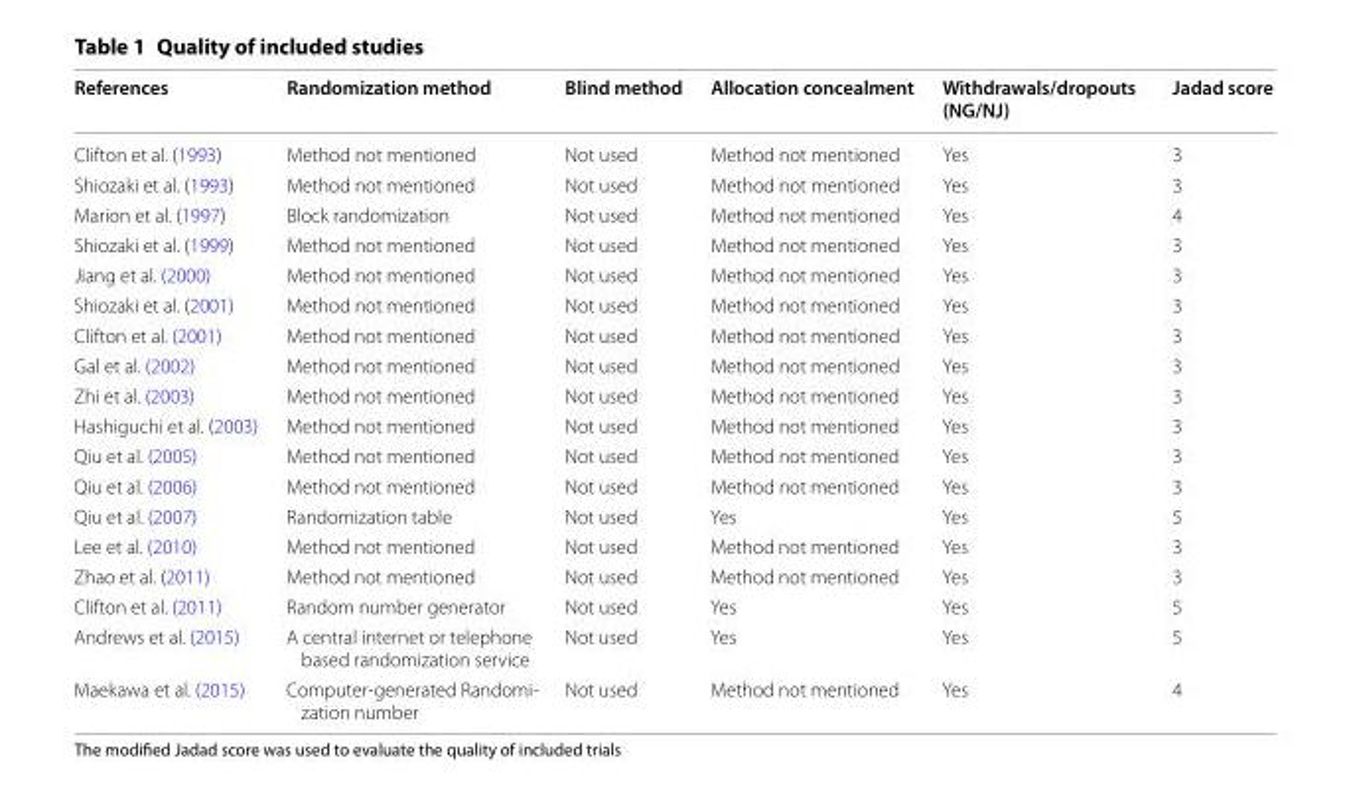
<table><thead><tr><td>References</td><td>Randomization method</td><td>Blind method</td><td>Allocation concealment</td><td>Withdrawals/dropouts (NG/NJ)</td><td>Jadad score</td></tr></thead><tbody><tr><td>Clifton et al. (1993)</td><td>Method not mentioned</td><td>Not used</td><td>Method not mentioned</td><td>Yes</td><td>3</td></tr><tr><td>Shiozaki et al. (1993)</td><td>Method not mentioned</td><td>Not used</td><td>Method not mentioned</td><td>Yes</td><td>3</td></tr><tr><td>Marion et al. (1997)</td><td>Block randomization</td><td>Not used</td><td>Method not mentioned</td><td>Yes</td><td>4</td></tr><tr><td>Shiozaki et al. (1999)</td><td>Method not mentioned</td><td>Not used</td><td>Method not mentioned</td><td>Yes</td><td>3</td></tr><tr><td>Jiang et al. (2000)</td><td>Method not mentioned</td><td>Not used</td><td>Method not mentioned</td><td>Yes</td><td>3</td></tr><tr><td>Shiozaki et al. (2001)</td><td>Method not mentioned</td><td>Not used</td><td>Method not mentioned</td><td>Yes</td><td>3</td></tr><tr><td>Clifton et al. (2001)</td><td>Method not mentioned</td><td>Not used</td><td>Method not mentioned</td><td>Yes</td><td>3</td></tr><tr><td>Gal et al. (2002)</td><td>Method not mentioned</td><td>Not used</td><td>Method not mentioned</td><td>Yes</td><td>3</td></tr><tr><td>Zhi et al. (2003)</td><td>Method not mentioned</td><td>Not used</td><td>Method not mentioned</td><td>Yes</td><td>3</td></tr><tr><td>Hashiguchi et al. (2003)</td><td>Method not mentioned</td><td>Not used</td><td>Method not mentioned</td><td>Yes</td><td>3</td></tr><tr><td>Qiu et al. (2005)</td><td>Method not mentioned</td><td>Not used</td><td>Method not mentioned</td><td>Yes</td><td>3</td></tr><tr><td>Qiu et al. (2006)</td><td>Method not mentioned</td><td>Not used</td><td>Method not mentioned</td><td>Yes</td><td>3</td></tr><tr><td>Qiu et al. (2007)</td><td>Randomization table</td><td>Not used</td><td>Yes</td><td>Yes</td><td>5</td></tr><tr><td>Lee et al. (2010)</td><td>Method not mentioned</td><td>Not used</td><td>Method not mentioned</td><td>Yes</td><td>3</td></tr><tr><td>Zhao et al. (2011)</td><td>Method not mentioned</td><td>Not used</td><td>Method not mentioned</td><td>Yes</td><td>3</td></tr><tr><td>Clifton et al. (2011)</td><td>Random number generator</td><td>Not used</td><td>Yes</td><td>Yes</td><td>5</td></tr><tr><td>Andrews et al. (2015)</td><td>A central internet or telephone based randomization service</td><td>Not used</td><td>Yes</td><td>Yes</td><td>5</td></tr><tr><td>Maekawa et al. (2015)</td><td>Computer-generated Randomi- zation number</td><td>Not used</td><td>Method not mentioned</td><td>Yes</td><td>4</td></tr></tbody></table>